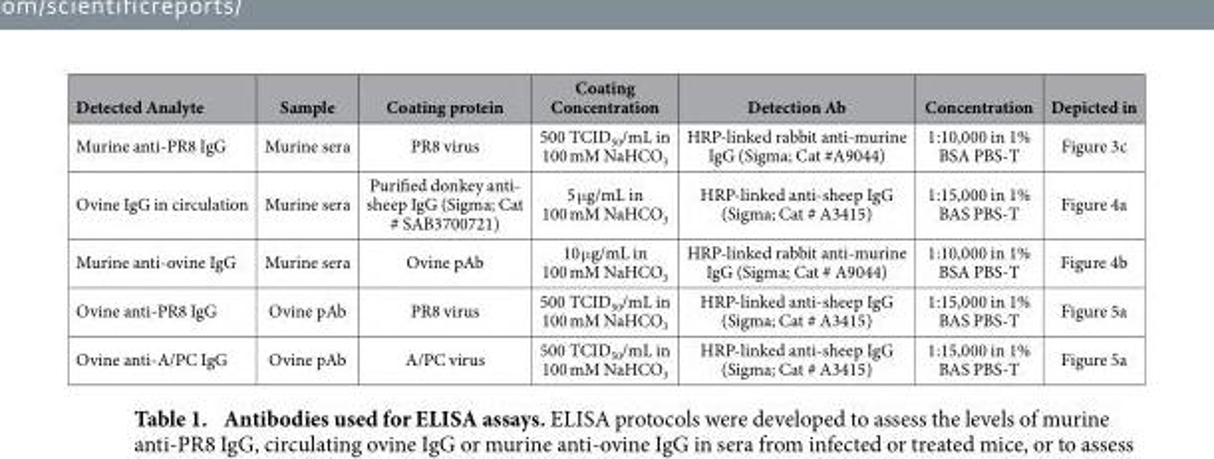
<table><thead><tr><td>Detected Analyte</td><td>Sample</td><td>Coating protein</td><td>Coating Concentration</td><td>Detection Ab</td><td>Concentration</td><td>Depicted in</td></tr></thead><tbody><tr><td>Murine anti-PR8 IgG</td><td>Murine sera</td><td>PR8 virus</td><td>500 TCID<sub>50</sub>/mL in 100 mM NaHCO<sub>3</sub></td><td>HRP-linked rabbit anti-murine IgG (Sigma; Cat #A9044)</td><td>1:10,000 in 1% BSA PBS-T</td><td>Figure 3c</td></tr><tr><td>Ovine IgG in circulation</td><td>Murine sera</td><td>Purified donkey anti- sheep IgG (Sigma; Cat # SAB3700721)</td><td>5 μ g/mL in 100 mM NaHCO<sub>3</sub></td><td>HRP-linked anti-sheep IgG (Sigma; Cat # A3415)</td><td>1:15,000 in 1% BAS PBS-T</td><td>Figure 4a</td></tr><tr><td>Murine anti-ovine IgG</td><td>Murine sera</td><td>Ovine pAb</td><td>10 μ g/mL in 100 mM NaHCO<sub>3</sub></td><td>HRP-linked rabbit anti-murine IgG (Sigma; Cat # A9044)</td><td>1:10,000 in 1% BSA PBS-T</td><td>Figure 4b</td></tr><tr><td>Ovine anti-PR8 IgG</td><td>Ovine pAb</td><td>PR8 virus</td><td>500 TCID<sub>50</sub>/mL in 100 mM NaHCO<sub>3</sub></td><td>HRP-linked anti-sheep IgG (Sigma; Cat # A3415)</td><td>1:15,000 in 1% BAS PBS-T</td><td>Figure 5a</td></tr><tr><td>Ovine anti-A/PC IgG</td><td>Ovine pAb</td><td>A/PC virus</td><td>500 TCID<sub>50</sub>/mL in 100 mM NaHCO<sub>3</sub></td><td>HRP-linked anti-sheep IgG (Sigma; Cat # A3415)</td><td>1:15,000 in 1% BAS PBS-T</td><td>Figure 5a</td></tr></tbody></table>